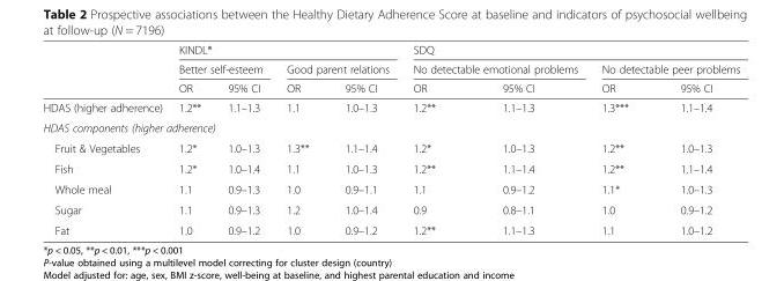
<table><thead><tr><td rowspan="3"></td><td colspan="4">KINDL®</td><td colspan="4">SDQ</td></tr><tr><td colspan="2">Better self-esteem</td><td colspan="2">Good parent relations</td><td colspan="2">No detectable emotional problems</td><td colspan="2">No detectable peer problems</td></tr><tr><td>OR</td><td>95% CI</td><td>OR</td><td>95% CI</td><td>OR</td><td>95% CI</td><td>OR</td><td>95% CI</td></tr></thead><tbody><tr><td>HDAS (higher adherence)</td><td>1.2**</td><td>1.1–1.3</td><td>1.1</td><td>1.0–1.3</td><td>1.2**</td><td>1.1–1.3</td><td>1.3***</td><td>1.1–1.4</td></tr><tr><td colspan="9">HDAS components (higher adherence)</td></tr><tr><td>Fruit &amp; Vegetables</td><td>1.2*</td><td>1.0–1.3</td><td>1.3**</td><td>1.1–1.4</td><td>1.2*</td><td>1.0–1.3</td><td>1.2**</td><td>1.0–1.3</td></tr><tr><td>Fish</td><td>1.2*</td><td>1.0–1.4</td><td>1.1</td><td>1.0–1.3</td><td>1.2**</td><td>1.1–1.4</td><td>1.2**</td><td>1.1–1.4</td></tr><tr><td>Whole meal</td><td>1.1</td><td>0.9–1.3</td><td>1.0</td><td>0.9–1.1</td><td>1.1</td><td>0.9–1.2</td><td>1.1*</td><td>1.0–1.3</td></tr><tr><td>Sugar</td><td>1.1</td><td>0.9–1.3</td><td>1.2</td><td>1.0–1.4</td><td>0.9</td><td>0.8–1.1</td><td>1.0</td><td>0.9–1.2</td></tr><tr><td>Fat</td><td>1.0</td><td>0.9–1.2</td><td>1.0</td><td>0.9–1.2</td><td>1.2**</td><td>1.1–1.3</td><td>1.1</td><td>1.0–1.2</td></tr></tbody></table>